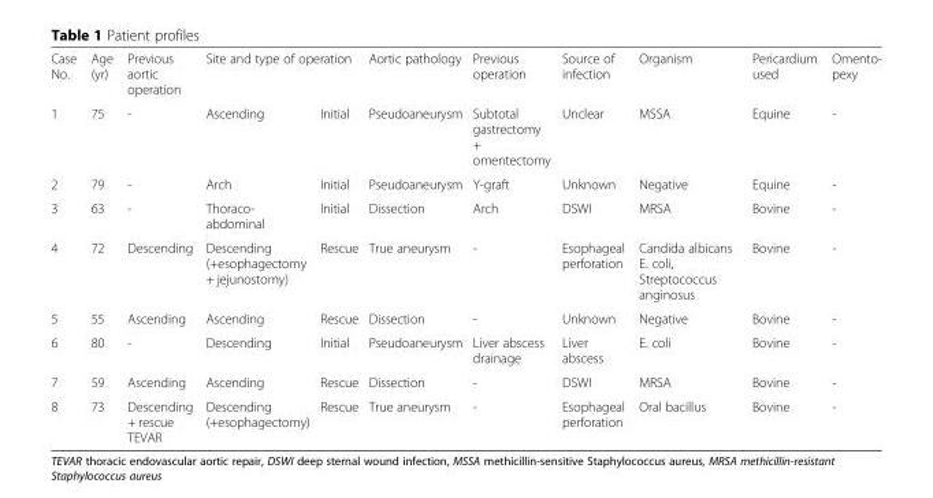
<table><tbody><tr><td>Case No.</td><td>Age (yr)</td><td>Previous aortic operation</td><td colspan="2">Site and type of operation</td><td>Aortic pathology</td><td>Previous operation</td><td>Source of infection</td><td>Organism</td><td>Pericardium used</td><td>Omento- pexy</td></tr><tr><td>1</td><td>75</td><td>-</td><td>Ascending</td><td>Initial</td><td>Pseudoaneurysm</td><td>Subtotal gastrectomy + omentectomy</td><td>Unclear</td><td>MSSA</td><td>Equine</td><td>-</td></tr><tr><td>2</td><td>79</td><td>-</td><td>Arch</td><td>Initial</td><td>Pseudoaneurysm</td><td>Y-graft</td><td>Unknown</td><td>Negative</td><td>Equine</td><td>-</td></tr><tr><td>3</td><td>63</td><td>-</td><td>Thoraco- abdominal</td><td>Initial</td><td>Dissection</td><td>Arch</td><td>DSWI</td><td>MRSA</td><td>Bovine</td><td>-</td></tr><tr><td>4</td><td>72</td><td>Descending</td><td>Descending (+esophagectomy + jejunostomy)</td><td>Rescue</td><td>True aneurysm</td><td>-</td><td>Esophageal perforation</td><td>Candida albicans E. coli, Streptococcus anginosus</td><td>Bovine</td><td>-</td></tr><tr><td>5</td><td>55</td><td>Ascending</td><td>Ascending</td><td>Rescue</td><td>Dissection</td><td>-</td><td>Unknown</td><td>Negative</td><td>Bovine</td><td>-</td></tr><tr><td>6</td><td>80</td><td>-</td><td>Descending</td><td>Initial</td><td>Pseudoaneurysm</td><td>Liver abscess drainage</td><td>Liver abscess</td><td>E. coli</td><td>Bovine</td><td>-</td></tr><tr><td>7</td><td>59</td><td>Ascending</td><td>Ascending</td><td>Rescue</td><td>Dissection</td><td>-</td><td>DSWI</td><td>MRSA</td><td>Bovine</td><td>-</td></tr><tr><td>8</td><td>73</td><td>Descending + rescue TEVAR</td><td>Descending (+esophagectomy)</td><td>Rescue</td><td>True aneurysm</td><td>-</td><td>Esophageal perforation</td><td>Oral bacillus</td><td>Bovine</td><td>-</td></tr></tbody></table>